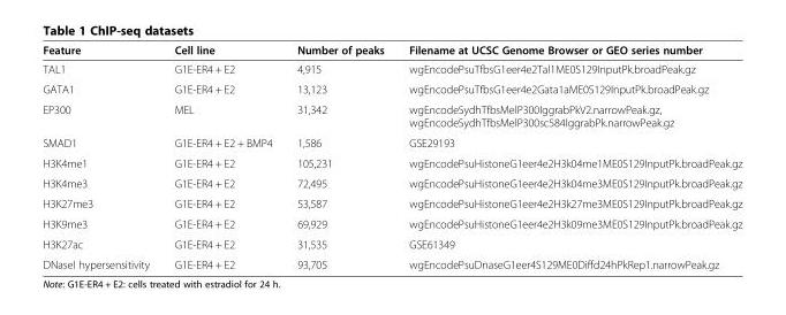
<table><thead><tr><td>Feature</td><td>Cell line</td><td>Number of peaks</td><td>Filename at UCSC Genome Browser or GEO series number</td></tr></thead><tbody><tr><td>TAL1</td><td>G1E-ER4 + E2</td><td>4,915</td><td>wgEncodePsuTfbsG1eer4e2Tal1ME0S129InputPk.broadPeak.gz</td></tr><tr><td>GATA1</td><td>G1E-ER4 + E2</td><td>13,123</td><td>wgEncodePsuTfbsG1eer4e2Gata1aME0S129InputPk.broadPeak.gz</td></tr><tr><td>EP300</td><td>MEL</td><td>31,342</td><td>wgEncodeSydhTfbsMelP300IggrabPkV2.narrowPeak.gz, wgEncodeSydhTfbsMelP300sc584IggrabPk.narrowPeak.gz</td></tr><tr><td>SMAD1</td><td>G1E-ER4 + E2 + BMP4</td><td>1,586</td><td>GSE29193</td></tr><tr><td>H3K4me1</td><td>G1E-ER4 + E2</td><td>105,231</td><td>wgEncodePsuHistoneG1eer4e2H3k04me1ME0S129InputPk.broadPeak.gz</td></tr><tr><td>H3K4me3</td><td>G1E-ER4 + E2</td><td>72,495</td><td>wgEncodePsuHistoneG1eer4e2H3k04me3ME0S129InputPk.broadPeak.gz</td></tr><tr><td>H3K27me3</td><td>G1E-ER4 + E2</td><td>53,587</td><td>wgEncodePsuHistoneG1eer4e2H3k27me3ME0S129InputPk.broadPeak.gz</td></tr><tr><td>H3K9me3</td><td>G1E-ER4 + E2</td><td>69,929</td><td>wgEncodePsuHistoneG1eer4e2H3k09me3ME0S129InputPk.broadPeak.gz</td></tr><tr><td>H3K27ac</td><td>G1E-ER4 + E2</td><td>31,535</td><td>GSE61349</td></tr><tr><td>DNaseI hypersensitivity</td><td>G1E-ER4 + E2</td><td>93,705</td><td>wgEncodePsuDnaseG1eer4S129ME0Diffd24hPkRep1.narrowPeak.gz</td></tr></tbody></table>